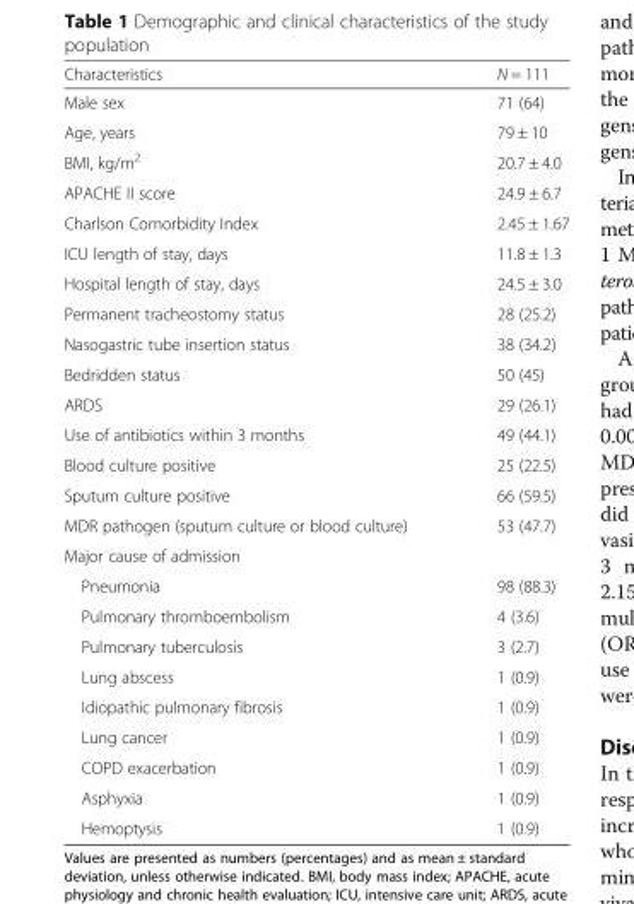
<table><thead><tr><td>Characteristics</td><td>N = 111</td></tr></thead><tbody><tr><td>Male sex</td><td>71 (64)</td></tr><tr><td>Age, years</td><td>79 ± 10</td></tr><tr><td>BMI, kg/m<sup>2</sup></td><td>20.7 ± 4.0</td></tr><tr><td>APACHE II score</td><td>24.9 ± 6.7</td></tr><tr><td>Charlson Comorbidity Index</td><td>2.45 ± 1.67</td></tr><tr><td>ICU length of stay, days</td><td>11.8 ± 1.3</td></tr><tr><td>Hospital length of stay, days</td><td>24.5 ± 3.0</td></tr><tr><td>Permanent tracheostomy status</td><td>28 (25.2)</td></tr><tr><td>Nasogastric tube insertion status</td><td>38 (34.2)</td></tr><tr><td>Bedridden status</td><td>50 (45)</td></tr><tr><td>ARDS</td><td>29 (26.1)</td></tr><tr><td>Use of antibiotics within 3 months</td><td>49 (44.1)</td></tr><tr><td>Blood culture positive</td><td>25 (22.5)</td></tr><tr><td>Sputum culture positive</td><td>66 (59.5)</td></tr><tr><td>MDR pathogen (sputum culture or blood culture)</td><td>53 (47.7)</td></tr><tr><td colspan="2">Major cause of admission</td></tr><tr><td>Pneumonia</td><td>98 (88.3)</td></tr><tr><td>Pulmonary thromboembolism</td><td>4 (3.6)</td></tr><tr><td>Pulmonary tuberculosis</td><td>3 (2.7)</td></tr><tr><td>Lung abscess</td><td>1 (0.9)</td></tr><tr><td>Idiopathic pulmonary fibrosis</td><td>1 (0.9)</td></tr><tr><td>Lung cancer</td><td>1 (0.9)</td></tr><tr><td>COPD exacerbation</td><td>1 (0.9)</td></tr><tr><td>Asphyxia</td><td>1 (0.9)</td></tr><tr><td>Hemoptysis</td><td>1 (0.9)</td></tr></tbody></table>